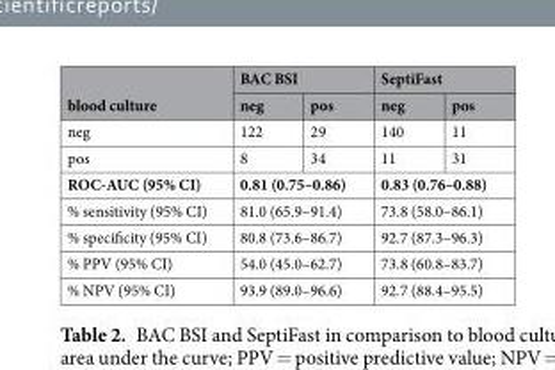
<table><thead><tr><td rowspan="2">blood culture</td><td colspan="2">BAC BSI</td><td colspan="2">SeptiFast</td></tr><tr><td>neg</td><td>pos</td><td>neg</td><td>pos</td></tr></thead><tbody><tr><td>neg</td><td>122</td><td>29</td><td>140</td><td>11</td></tr><tr><td>pos</td><td>8</td><td>34</td><td>11</td><td>31</td></tr><tr><td>ROC-AUC (95% CI)</td><td colspan="2">0.81 (0.75–0.86)</td><td colspan="2">0.83 (0.76–0.88)</td></tr><tr><td>% sensitivity (95% CI)</td><td colspan="2">81.0 (65.9–91.4)</td><td colspan="2">73.8 (58.0–86.1)</td></tr><tr><td>% specificity (95% CI)</td><td colspan="2">80.8 (73.6–86.7)</td><td colspan="2">92.7 (87.3–96.3)</td></tr><tr><td>% PPV (95% CI)</td><td colspan="2">54.0 (45.0–62.7)</td><td colspan="2">73.8 (60.8–83.7)</td></tr><tr><td>% NPV (95% CI)</td><td colspan="2">93.9 (89.0–96.6)</td><td colspan="2">92.7 (88.4–95.5)</td></tr></tbody></table>